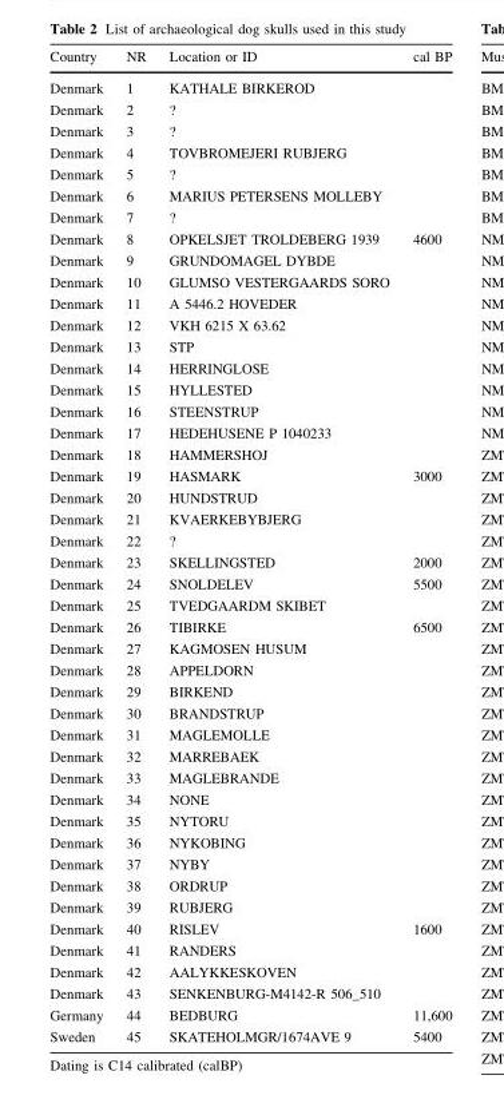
<table><thead><tr><td>Country</td><td>NR</td><td>Location or ID</td><td>cal BP</td></tr></thead><tbody><tr><td>Denmark</td><td>1</td><td>KATHALE BIRKEROD</td><td></td></tr><tr><td>Denmark</td><td>2</td><td>?</td><td></td></tr><tr><td>Denmark</td><td>3</td><td>?</td><td></td></tr><tr><td>Denmark</td><td>4</td><td>TOVBROMEJERI RUBJERG</td><td></td></tr><tr><td>Denmark</td><td>5</td><td>?</td><td></td></tr><tr><td>Denmark</td><td>6</td><td>MARIUS PETERSENS MOLLEBY</td><td></td></tr><tr><td>Denmark</td><td>7</td><td>?</td><td></td></tr><tr><td>Denmark</td><td>8</td><td>OPKELSJET TROLDEBERG 1939</td><td>4600</td></tr><tr><td>Denmark</td><td>9</td><td>GRUNDOMAGEL DYBDE</td><td></td></tr><tr><td>Denmark</td><td>10</td><td>GLUMSO VESTERGAARDS SORO</td><td></td></tr><tr><td>Denmark</td><td>11</td><td>A 5446.2 HOVEDER</td><td></td></tr><tr><td>Denmark</td><td>12</td><td>VKH 6215 X 63.62</td><td></td></tr><tr><td>Denmark</td><td>13</td><td>STP</td><td></td></tr><tr><td>Denmark</td><td>14</td><td>HERRINGLOSE</td><td></td></tr><tr><td>Denmark</td><td>15</td><td>HYLLESTED</td><td></td></tr><tr><td>Denmark</td><td>16</td><td>STEENSTRUP</td><td></td></tr><tr><td>Denmark</td><td>17</td><td>HEDEHUSENE P 1040233</td><td></td></tr><tr><td>Denmark</td><td>18</td><td>HAMMERSHOJ</td><td></td></tr><tr><td>Denmark</td><td>19</td><td>HASMARK</td><td>3000</td></tr><tr><td>Denmark</td><td>20</td><td>HUNDSTRUD</td><td></td></tr><tr><td>Denmark</td><td>21</td><td>KVAERKEBYBJERG</td><td></td></tr><tr><td>Denmark</td><td>22</td><td>?</td><td></td></tr><tr><td>Denmark</td><td>23</td><td>SKELLINGSTED</td><td>2000</td></tr><tr><td>Denmark</td><td>24</td><td>SNOLDELEV</td><td>5500</td></tr><tr><td>Denmark</td><td>25</td><td>TVEDGAARDM SKIBET</td><td></td></tr><tr><td>Denmark</td><td>26</td><td>TIBIRKE</td><td>6500</td></tr><tr><td>Denmark</td><td>27</td><td>KAGMOSEN HUSUM</td><td></td></tr><tr><td>Denmark</td><td>28</td><td>APPELDORN</td><td></td></tr><tr><td>Denmark</td><td>29</td><td>BIRKEND</td><td></td></tr><tr><td>Denmark</td><td>30</td><td>BRANDSTRUP</td><td></td></tr><tr><td>Denmark</td><td>31</td><td>MAGLEMOLLE</td><td></td></tr><tr><td>Denmark</td><td>32</td><td>MARREBAEK</td><td></td></tr><tr><td>Denmark</td><td>33</td><td>MAGLEBRANDE</td><td></td></tr><tr><td>Denmark</td><td>34</td><td>NONE</td><td></td></tr><tr><td>Denmark</td><td>35</td><td>NYTORU</td><td></td></tr><tr><td>Denmark</td><td>36</td><td>NYKOBING</td><td></td></tr><tr><td>Denmark</td><td>37</td><td>NYBY</td><td></td></tr><tr><td>Denmark</td><td>38</td><td>ORDRUP</td><td></td></tr><tr><td>Denmark</td><td>39</td><td>RUBJERG</td><td></td></tr><tr><td>Denmark</td><td>40</td><td>RISLEV</td><td>1600</td></tr><tr><td>Denmark</td><td>41</td><td>RANDERS</td><td></td></tr><tr><td>Denmark</td><td>42</td><td>AALYKKESKOVEN</td><td></td></tr><tr><td>Denmark</td><td>43</td><td>SENKENBURG-M4142-R 506_510</td><td></td></tr><tr><td>Germany</td><td>44</td><td>BEDBURG</td><td>11,600</td></tr><tr><td>Sweden</td><td>45</td><td>SKATEHOLMGR/1674AVE 9</td><td>5400</td></tr></tbody></table>